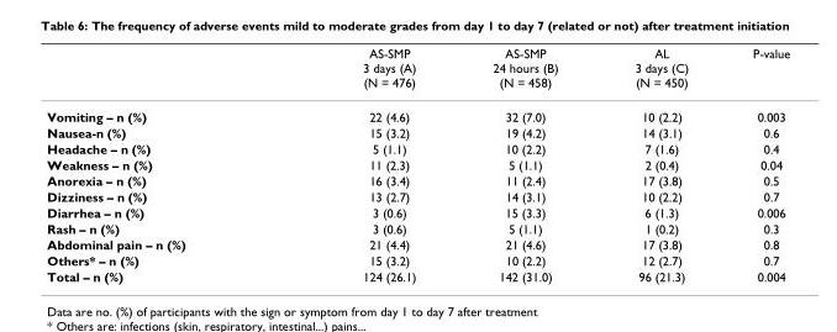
<table><thead><tr><td></td><td>AS-SMP 3 days (A) (N = 476)</td><td>AS-SMP 24 hours (B) (N = 458)</td><td>AL 3 days (C) (N = 450)</td><td>P-value</td></tr></thead><tbody><tr><td>Vomiting – n (%)</td><td>22 (4.6)</td><td>32 (7.0)</td><td>10 (2.2)</td><td>0.003</td></tr><tr><td>Nausea-n (%)</td><td>15 (3.2)</td><td>19 (4.2)</td><td>14 (3.1)</td><td>0.6</td></tr><tr><td>Headache – n (%)</td><td>5 (1.1)</td><td>10 (2.2)</td><td>7 (1.6)</td><td>0.4</td></tr><tr><td>Weakness – n (%)</td><td>11 (2.3)</td><td>5 (1.1)</td><td>2 (0.4)</td><td>0.04</td></tr><tr><td>Anorexia – n (%)</td><td>16 (3.4)</td><td>11 (2.4)</td><td>17 (3.8)</td><td>0.5</td></tr><tr><td>Dizziness – n (%)</td><td>13 (2.7)</td><td>14 (3.1)</td><td>10 (2.2)</td><td>0.7</td></tr><tr><td>Diarrhea – n (%)</td><td>3 (0.6)</td><td>15 (3.3)</td><td>6 (1.3)</td><td>0.006</td></tr><tr><td>Rash – n (%)</td><td>3 (0.6)</td><td>5 (1.1)</td><td>1 (0.2)</td><td>0.3</td></tr><tr><td>Abdominal pain – n (%)</td><td>21 (4.4)</td><td>21 (4.6)</td><td>17 (3.8)</td><td>0.8</td></tr><tr><td>Others* – n (%)</td><td>15 (3.2)</td><td>10 (2.2)</td><td>12 (2.7)</td><td>0.7</td></tr><tr><td>Total – n (%)</td><td>124 (26.1)</td><td>142 (31.0)</td><td>96 (21.3)</td><td>0.004</td></tr></tbody></table>